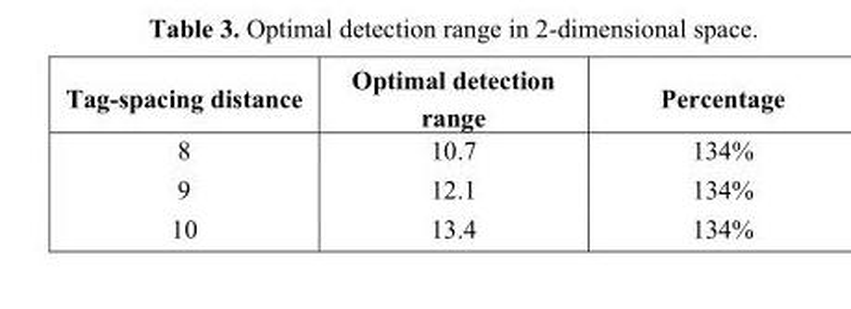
<table><thead><tr><td>Tag-spacing distance</td><td>Optimal detection range</td><td>Percentage</td></tr></thead><tbody><tr><td>8</td><td>10.7</td><td>134%</td></tr><tr><td>9</td><td>12.1</td><td>134%</td></tr><tr><td>10</td><td>13.4</td><td>134%</td></tr></tbody></table>